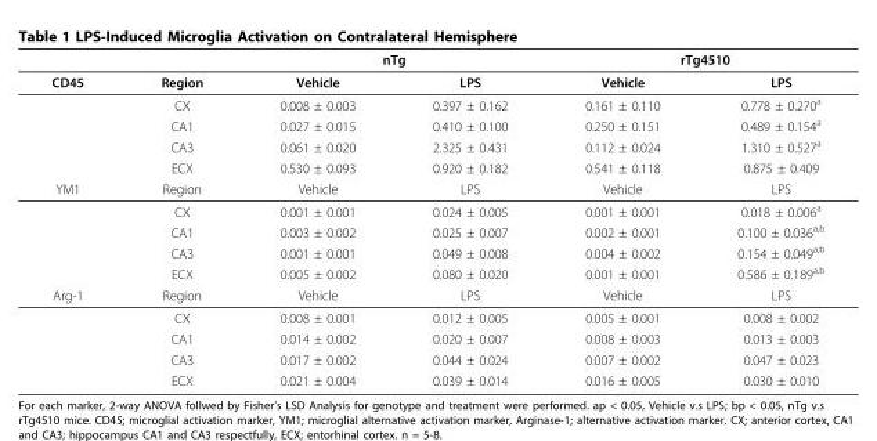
<table><thead><tr><td rowspan="2">CD45</td><td rowspan="2">Region</td><td colspan="2">nTg</td><td colspan="2">rTg4510</td></tr><tr><td>Vehicle</td><td>LPS</td><td>Vehicle</td><td>LPS</td></tr></thead><tbody><tr><td></td><td>CX</td><td>0.008 ± 0.003</td><td>0.397 ± 0.162</td><td>0.161 ± 0.110</td><td>0.778 ± 0.270<sup>a</sup></td></tr><tr><td></td><td>CA1</td><td>0.027 ± 0.015</td><td>0.410 ± 0.100</td><td>0.250 ± 0.151</td><td>0.489 ± 0.154<sup>a</sup></td></tr><tr><td></td><td>CA3</td><td>0.061 ± 0.020</td><td>2.325 ± 0.431</td><td>0.112 ± 0.024</td><td>1.310 ± 0.527<sup>a</sup></td></tr><tr><td></td><td>ECX</td><td>0.530 ± 0.093</td><td>0.920 ± 0.182</td><td>0.541 ± 0.118</td><td>0.875 ± 0.409</td></tr><tr><td rowspan="5">YM1</td><td>Region</td><td>Vehicle</td><td>LPS</td><td>Vehicle</td><td>LPS</td></tr><tr><td>CX</td><td>0.001 ± 0.001</td><td>0.024 ± 0.005</td><td>0.001 ± 0.001</td><td>0.018 ± 0.006<sup>a</sup></td></tr><tr><td>CA1</td><td>0.003 ± 0.002</td><td>0.025 ± 0.007</td><td>0.002 ± 0.001</td><td>0.100 ± 0.036<sup>a,b</sup></td></tr><tr><td>CA3</td><td>0.001 ± 0.001</td><td>0.049 ± 0.008</td><td>0.004 ± 0.002</td><td>0.154 ± 0.049<sup>a,b</sup></td></tr><tr><td>ECX</td><td>0.005 ± 0.002</td><td>0.080 ± 0.020</td><td>0.001 ± 0.001</td><td>0.586 ± 0.189<sup>a,b</sup></td></tr><tr><td rowspan="5">Arg-1</td><td>Region</td><td>Vehicle</td><td>LPS</td><td>Vehicle</td><td>LPS</td></tr><tr><td>CX</td><td>0.008 ± 0.001</td><td>0.012 ± 0.005</td><td>0.005 ± 0.001</td><td>0.008 ± 0.002</td></tr><tr><td>CA1</td><td>0.014 ± 0.002</td><td>0.020 ± 0.007</td><td>0.008 ± 0.003</td><td>0.013 ± 0.003</td></tr><tr><td>CA3</td><td>0.017 ± 0.002</td><td>0.044 ± 0.024</td><td>0.007 ± 0.002</td><td>0.047 ± 0.023</td></tr><tr><td>ECX</td><td>0.021 ± 0.004</td><td>0.039 ± 0.014</td><td>0.016 ± 0.005</td><td>0.030 ± 0.010</td></tr></tbody></table>